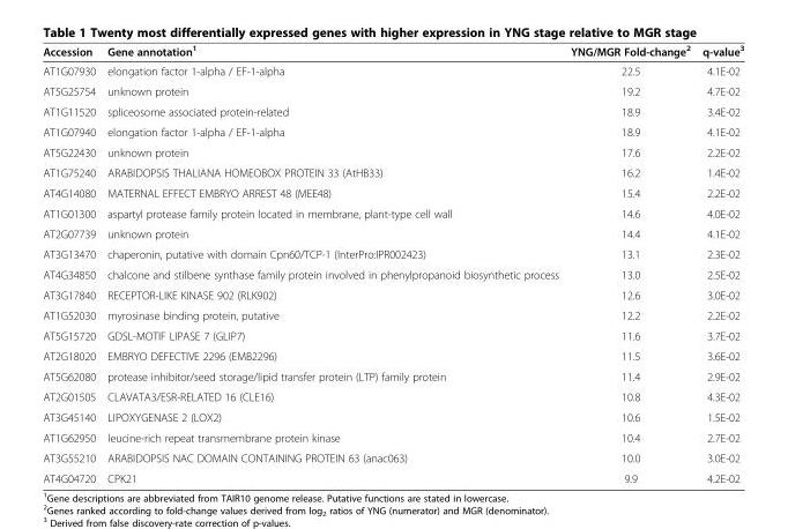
<table><thead><tr><td>Accession</td><td>Gene annotation<sup>1</sup></td><td>YNG/MGR Fold-change<sup>2</sup></td><td>q-value<sup>3</sup></td></tr></thead><tbody><tr><td>AT1G07930</td><td>elongation factor 1-alpha / EF-1-alpha</td><td>22.5</td><td>4.1E-02</td></tr><tr><td>AT5G25754</td><td>unknown protein</td><td>19.2</td><td>4.7E-02</td></tr><tr><td>AT1G11520</td><td>spliceosome associated protein-related</td><td>18.9</td><td>3.4E-02</td></tr><tr><td>AT1G07940</td><td>elongation factor 1-alpha / EF-1-alpha</td><td>18.9</td><td>4.1E-02</td></tr><tr><td>AT5G22430</td><td>unknown protein</td><td>17.6</td><td>2.2E-02</td></tr><tr><td>AT1G75240</td><td>ARABIDOPSIS THALIANA HOMEOBOX PROTEIN 33 (AtHB33)</td><td>16.2</td><td>1.4E-02</td></tr><tr><td>AT4G14080</td><td>MATERNAL EFFECT EMBRYO ARREST 48 (MEE48)</td><td>15.4</td><td>2.2E-02</td></tr><tr><td>AT1G01300</td><td>aspartyl protease family protein located in membrane, plant-type cell wall</td><td>14.6</td><td>4.0E-02</td></tr><tr><td>AT2G07739</td><td>unknown protein</td><td>14.4</td><td>4.1E-02</td></tr><tr><td>AT3G13470</td><td>chaperonin, putative with domain Cpn60/TCP-1 (InterPro:IPR002423)</td><td>13.1</td><td>2.3E-02</td></tr><tr><td>AT4G34850</td><td>chalcone and stilbene synthase family protein involved in phenylpropanoid biosynthetic process</td><td>13.0</td><td>2.5E-02</td></tr><tr><td>AT3G17840</td><td>RECEPTOR-LIKE KINASE 902 (RLK902)</td><td>12.6</td><td>3.0E-02</td></tr><tr><td>AT1G52030</td><td>myrosinase binding protein, putative</td><td>12.2</td><td>2.2E-02</td></tr><tr><td>AT5G15720</td><td>GDSL-MOTIF LIPASE 7 (GLIP7)</td><td>11.6</td><td>3.7E-02</td></tr><tr><td>AT2G18020</td><td>EMBRYO DEFECTIVE 2296 (EMB2296)</td><td>11.5</td><td>3.6E-02</td></tr><tr><td>AT5G62080</td><td>protease inhibitor/seed storage/lipid transfer protein (LTP) family protein</td><td>11.4</td><td>2.9E-02</td></tr><tr><td>AT2G01505</td><td>CLAVATA3/ESR-RELATED 16 (CLE16)</td><td>10.8</td><td>4.3E-02</td></tr><tr><td>AT3G45140</td><td>LIPOXYGENASE 2 (LOX2)</td><td>10.6</td><td>1.5E-02</td></tr><tr><td>AT1G62950</td><td>leucine-rich repeat transmembrane protein kinase</td><td>10.4</td><td>2.7E-02</td></tr><tr><td>AT3G55210</td><td>ARABIDOPSIS NAC DOMAIN CONTAINING PROTEIN 63 (anac063)</td><td>10.0</td><td>3.0E-02</td></tr><tr><td>AT4G04720</td><td>CPK21</td><td>9.9</td><td>4.2E-02</td></tr></tbody></table>